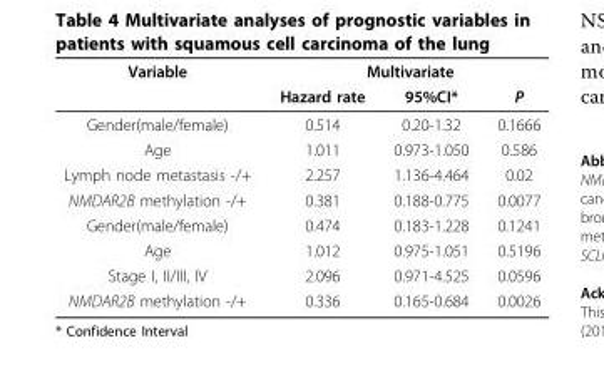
<table><thead><tr><td rowspan="2">Variable</td><td colspan="3">Multivariate</td></tr><tr><td>Hazard rate</td><td>95%CI*</td><td>P</td></tr></thead><tbody><tr><td>Gender(male/female)</td><td>0.514</td><td>0.20-1.32</td><td>0.1666</td></tr><tr><td>Age</td><td>1.011</td><td>0.973-1.050</td><td>0.586</td></tr><tr><td>Lymph node metastasis -/+</td><td>2.257</td><td>1.136-4.464</td><td>0.02</td></tr><tr><td>NMDAR2B methylation -/+</td><td>0.381</td><td>0.188-0.775</td><td>0.0077</td></tr><tr><td>Gender(male/female)</td><td>0.474</td><td>0.183-1.228</td><td>0.1241</td></tr><tr><td>Age</td><td>1.012</td><td>0.975-1.051</td><td>0.5196</td></tr><tr><td>Stage I, II/III, IV</td><td>2.096</td><td>0.971-4.525</td><td>0.0596</td></tr><tr><td>NMDAR2B methylation -/+</td><td>0.336</td><td>0.165-0.684</td><td>0.0026</td></tr></tbody></table>